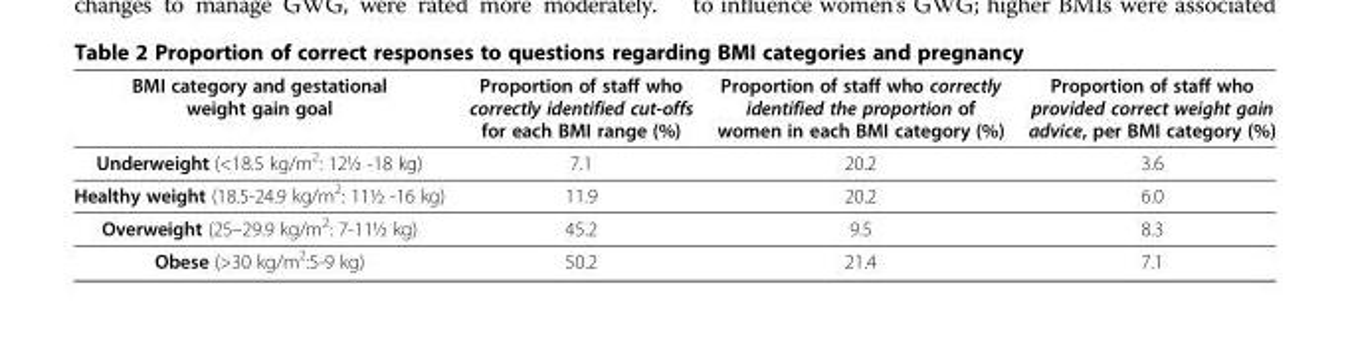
<table><thead><tr><td>BMI category and gestational weight gain goal</td><td>Proportion of staff who correctly identified cut-offs for each BMI range (%)</td><td>Proportion of staff who correctly identified the proportion of women in each BMI category (%)</td><td>Proportion of staff who provided correct weight gain advice, per BMI category (%)</td></tr></thead><tbody><tr><td>Underweight (&lt;18.5 kg/m<sup>2</sup>: 12½ -18 kg)</td><td>7.1</td><td>20.2</td><td>3.6</td></tr><tr><td>Healthy weight (18.5-24.9 kg/m<sup>2</sup>: 11½ -16 kg)</td><td>11.9</td><td>20.2</td><td>6.0</td></tr><tr><td>Overweight (25–29.9 kg/m<sup>2</sup>: 7-11½ kg)</td><td>45.2</td><td>9.5</td><td>8.3</td></tr><tr><td>Obese (&gt;30 kg/m<sup>2</sup>:5-9 kg)</td><td>50.2</td><td>21.4</td><td>7.1</td></tr></tbody></table>